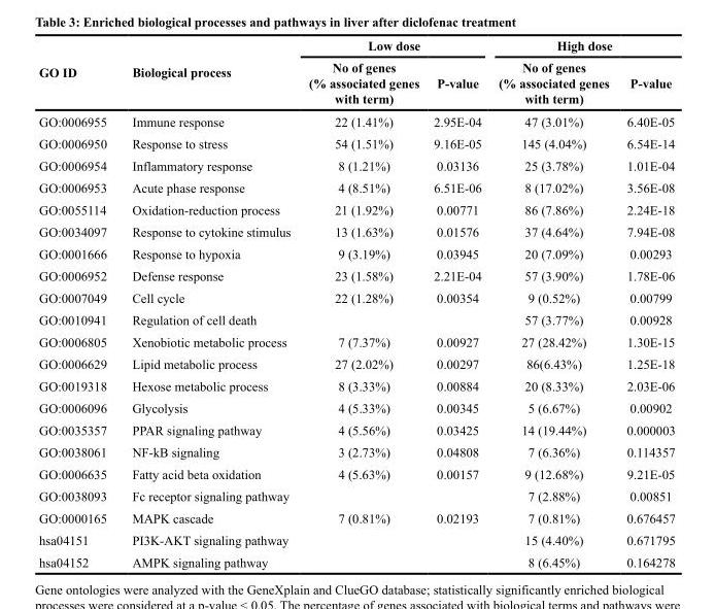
<table><thead><tr><td rowspan="2">GO ID</td><td rowspan="2">Biological process</td><td colspan="2">Low dose</td><td colspan="2">High dose</td></tr><tr><td>No of genes (% associated genes with term)</td><td>P-value</td><td>No of genes (% associated genes with term)</td><td>P-value</td></tr></thead><tbody><tr><td>GO:0006955</td><td>Immune response</td><td>22 (1.41%)</td><td>2.95E-04</td><td>47 (3.01%)</td><td>6.40E-05</td></tr><tr><td>GO:0006950</td><td>Response to stress</td><td>54 (1.51%)</td><td>9.16E-05</td><td>145 (4.04%)</td><td>6.54E-14</td></tr><tr><td>GO:0006954</td><td>Inflammatory response</td><td>8 (1.21%)</td><td>0.03136</td><td>25 (3.78%)</td><td>1.01E-04</td></tr><tr><td>GO:0006953</td><td>Acute phase response</td><td>4 (8.51%)</td><td>6.51E-06</td><td>8 (17.02%)</td><td>3.56E-08</td></tr><tr><td>GO:0055114</td><td>Oxidation-reduction process</td><td>21 (1.92%)</td><td>0.00771</td><td>86 (7.86%)</td><td>2.24E-18</td></tr><tr><td>GO:0034097</td><td>Response to cytokine stimulus</td><td>13 (1.63%)</td><td>0.01576</td><td>37 (4.64%)</td><td>7.94E-08</td></tr><tr><td>GO:0001666</td><td>Response to hypoxia</td><td>9 (3.19%)</td><td>0.03945</td><td>20 (7.09%)</td><td>0.00293</td></tr><tr><td>GO:0006952</td><td>Defense response</td><td>23 (1.58%)</td><td>2.21E-04</td><td>57 (3.90%)</td><td>1.78E-06</td></tr><tr><td>GO:0007049</td><td>Cell cycle</td><td>22 (1.28%)</td><td>0.00354</td><td>9 (0.52%)</td><td>0.00799</td></tr><tr><td>GO:0010941</td><td>Regulation of cell death</td><td></td><td></td><td>57 (3.77%)</td><td>0.00928</td></tr><tr><td>GO:0006805</td><td>Xenobiotic metabolic process</td><td>7 (7.37%)</td><td>0.00927</td><td>27 (28.42%)</td><td>1.30E-15</td></tr><tr><td>GO:0006629</td><td>Lipid metabolic process</td><td>27 (2.02%)</td><td>0.00297</td><td>86(6.43%)</td><td>1.25E-18</td></tr><tr><td>GO:0019318</td><td>Hexose metabolic process</td><td>8 (3.33%)</td><td>0.00884</td><td>20 (8.33%)</td><td>2.03E-06</td></tr><tr><td>GO:0006096</td><td>Glycolysis</td><td>4 (5.33%)</td><td>0.00345</td><td>5 (6.67%)</td><td>0.00902</td></tr><tr><td>GO:0035357</td><td>PPAR signaling pathway</td><td>4 (5.56%)</td><td>0.03425</td><td>14 (19.44%)</td><td>0.000003</td></tr><tr><td>GO:0038061</td><td>NF-kB signaling</td><td>3 (2.73%)</td><td>0.04808</td><td>7 (6.36%)</td><td>0.114357</td></tr><tr><td>GO:0006635</td><td>Fatty acid beta oxidation</td><td>4 (5.63%)</td><td>0.00157</td><td>9 (12.68%)</td><td>9.21E-05</td></tr><tr><td>GO:0038093</td><td>Fc receptor signaling pathway</td><td></td><td></td><td>7 (2.88%)</td><td>0.00851</td></tr><tr><td>GO:0000165</td><td>MAPK cascade</td><td>7 (0.81%)</td><td>0.02193</td><td>7 (0.81%)</td><td>0.676457</td></tr><tr><td>hsa04151</td><td>PI3K-AKT signaling pathway</td><td></td><td></td><td>15 (4.40%)</td><td>0.671795</td></tr><tr><td>hsa04152</td><td>AMPK signaling pathway</td><td></td><td></td><td>8 (6.45%)</td><td>0.164278</td></tr></tbody></table>